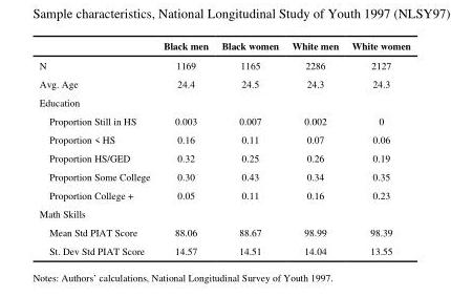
<table><thead><tr><td></td><td>Black men</td><td>Black women</td><td>White men</td><td>White women</td></tr></thead><tbody><tr><td>N</td><td>1169</td><td>1165</td><td>2286</td><td>2127</td></tr><tr><td>Avg. Age</td><td>24.4</td><td>24.5</td><td>24.3</td><td>24.3</td></tr><tr><td colspan="5">Education</td></tr><tr><td>Proportion Still in HS</td><td>0.003</td><td>0.007</td><td>0.002</td><td>0</td></tr><tr><td>Proportion &lt; HS</td><td>0.16</td><td>0.11</td><td>0.07</td><td>0.06</td></tr><tr><td>Proportion HS/GED</td><td>0.32</td><td>0.25</td><td>0.26</td><td>0.19</td></tr><tr><td>Proportion Some College</td><td>0.30</td><td>0.43</td><td>0.34</td><td>0.35</td></tr><tr><td>Proportion College +</td><td>0.05</td><td>0.11</td><td>0.16</td><td>0.23</td></tr><tr><td colspan="5">Math Skills</td></tr><tr><td>Mean Std PIAT Score</td><td>88.06</td><td>88.67</td><td>98.99</td><td>98.39</td></tr><tr><td>St. Dev Std PIAT Score</td><td>14.57</td><td>14.51</td><td>14.04</td><td>13.55</td></tr></tbody></table>